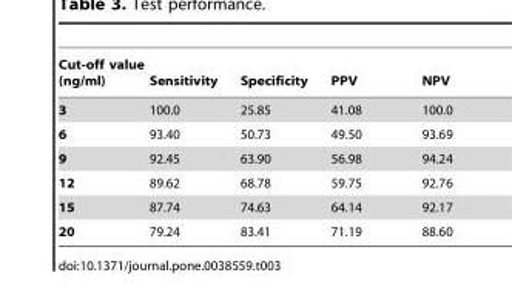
<table><thead><tr><td>Cut-off value (ng/ml)</td><td>Sensitivity</td><td>Specificity</td><td>PPV</td><td>NPV</td></tr></thead><tbody><tr><td>3</td><td>100.0</td><td>25.85</td><td>41.08</td><td>100.0</td></tr><tr><td>6</td><td>93.40</td><td>50.73</td><td>49.50</td><td>93.69</td></tr><tr><td>9</td><td>92.45</td><td>63.90</td><td>56.98</td><td>94.24</td></tr><tr><td>12</td><td>89.62</td><td>68.78</td><td>59.75</td><td>92.76</td></tr><tr><td>15</td><td>87.74</td><td>74.63</td><td>64.14</td><td>92.17</td></tr><tr><td>20</td><td>79.24</td><td>83.41</td><td>71.19</td><td>88.60</td></tr></tbody></table>